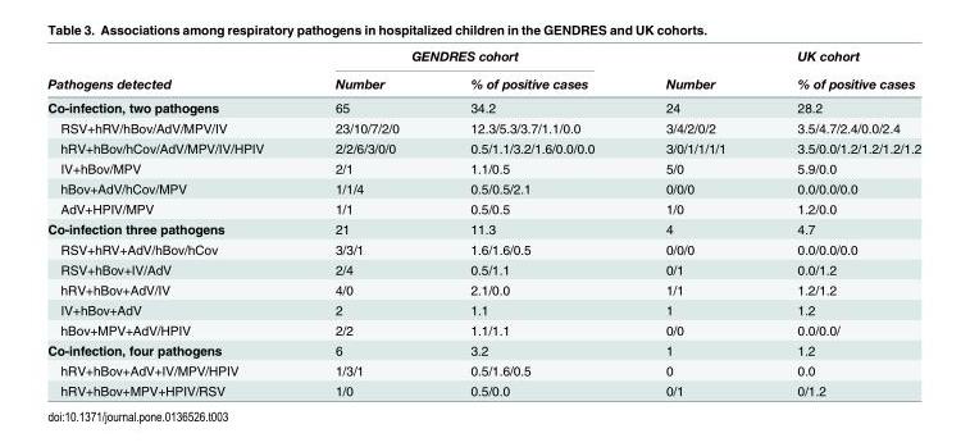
<table><thead><tr><td rowspan="2">Pathogens detected</td><td colspan="2">GENDRES cohort</td><td rowspan="2">Number</td><td rowspan="2">UK cohort % of positive cases</td></tr><tr><td>Number</td><td>% of positive cases</td></tr></thead><tbody><tr><td>Co-infection, two pathogens</td><td>65</td><td>34.2</td><td>24</td><td>28.2</td></tr><tr><td>RSV+hRV/hBov/AdV/MPV/IV</td><td>23/10/7/2/0</td><td>12.3/5.3/3.7/1.1/0.0</td><td>3/4/2/0/2</td><td>3.5/4.7/2.4/0.0/2.4</td></tr><tr><td>hRV+hBov/hCov/AdV/MPV/IV/HPIV</td><td>2/2/6/3/0/0</td><td>0.5/1.1/3.2/1.6/0.0/0.0</td><td>3/0/1/1/1/1</td><td>3.5/0.0/1.2/1.2/1.2/1.2</td></tr><tr><td>IV+hBov/MPV</td><td>2/1</td><td>1.1/0.5</td><td>5/0</td><td>5.9/0.0</td></tr><tr><td>hBov+AdV/hCov/MPV</td><td>1/1/4</td><td>0.5/0.5/2.1</td><td>0/0/0</td><td>0.0/0.0/0.0</td></tr><tr><td>AdV+HPIV/MPV</td><td>1/1</td><td>0.5/0.5</td><td>1/0</td><td>1.2/0.0</td></tr><tr><td>Co-infection three pathogens</td><td>21</td><td>11.3</td><td>4</td><td>4.7</td></tr><tr><td>RSV+hRV+AdV/hBov/hCov</td><td>3/3/1</td><td>1.6/1.6/0.5</td><td>0/0/0</td><td>0.0/0.0/0.0</td></tr><tr><td>RSV+hBov+IV/AdV</td><td>2/4</td><td>0.5/1.1</td><td>0/1</td><td>0.0/1.2</td></tr><tr><td>hRV+hBov+AdV/IV</td><td>4/0</td><td>2.1/0.0</td><td>1/1</td><td>1.2/1.2</td></tr><tr><td>IV+hBov+AdV</td><td>2</td><td>1.1</td><td>1</td><td>1.2</td></tr><tr><td>hBov+MPV+AdV/HPIV</td><td>2/2</td><td>1.1/1.1</td><td>0/0</td><td>0.0/0.0/</td></tr><tr><td>Co-infection, four pathogens</td><td>6</td><td>3.2</td><td>1</td><td>1.2</td></tr><tr><td>hRV+hBov+AdV+IV/MPV/HPIV</td><td>1/3/1</td><td>0.5/1.6/0.5</td><td>0</td><td>0.0</td></tr><tr><td>hRV+hBov+MPV+HPIV/RSV</td><td>1/0</td><td>0.5/0.0</td><td>0/1</td><td>0/1.2</td></tr></tbody></table>